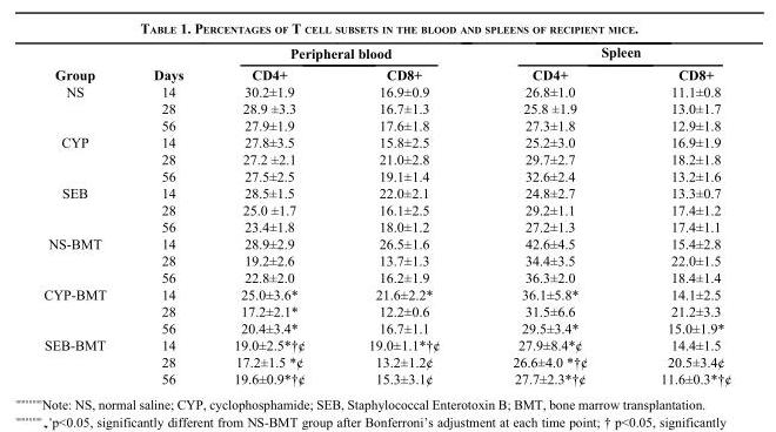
<table><thead><tr><td rowspan="2">Group</td><td rowspan="2">Days</td><td colspan="2">Peripheral blood</td><td colspan="2">Spleen</td></tr><tr><td>CD4+</td><td>CD8+</td><td>CD4+</td><td>CD8+</td></tr></thead><tbody><tr><td rowspan="3">NS</td><td>14</td><td>30.2±1.9</td><td>16.9±0.9</td><td>26.8±1.0</td><td>11.1±0.8</td></tr><tr><td>28</td><td>28.9 ±3.3</td><td>16.7±1.3</td><td>25.8 ±1.9</td><td>13.0±1.7</td></tr><tr><td>56</td><td>27.9±1.9</td><td>17.6±1.8</td><td>27.3±1.8</td><td>12.9±1.8</td></tr><tr><td rowspan="3">CYP</td><td>14</td><td>27.8±3.5</td><td>15.8±2.5</td><td>25.2±3.0</td><td>16.9±1.9</td></tr><tr><td>28</td><td>27.2 ±2.1</td><td>21.0±2.8</td><td>29.7±2.7</td><td>18.2±1.8</td></tr><tr><td>56</td><td>27.5±2.5</td><td>19.1±1.4</td><td>32.6±2.4</td><td>13.2±1.6</td></tr><tr><td rowspan="3">SEB</td><td>14</td><td>28.5±1.5</td><td>22.0±2.1</td><td>24.8±2.7</td><td>13.3±0.7</td></tr><tr><td>28</td><td>25.0 ±1.7</td><td>16.1±2.5</td><td>29.2±1.1</td><td>17.4±1.2</td></tr><tr><td>56</td><td>23.4±1.8</td><td>18.0±1.2</td><td>27.2±1.3</td><td>17.4±1.1</td></tr><tr><td rowspan="3">NS-BMT</td><td>14</td><td>28.9±2.9</td><td>26.5±1.6</td><td>42.6±4.5</td><td>15.4±2.8</td></tr><tr><td>28</td><td>19.2±2.6</td><td>13.7±1.3</td><td>34.4±3.5</td><td>22.0±1.5</td></tr><tr><td>56</td><td>22.8±2.0</td><td>16.2±1.9</td><td>36.3±2.0</td><td>18.4±1.4</td></tr><tr><td rowspan="3">CYP-BMT</td><td>14</td><td>25.0±3.6*</td><td>21.6±2.2*</td><td>36.1±5.8*</td><td>14.1±2.5</td></tr><tr><td>28</td><td>17.2±2.1*</td><td>12.2±0.6</td><td>31.5±6.6</td><td>21.2±3.3</td></tr><tr><td>56</td><td>20.4±3.4*</td><td>16.7±1.1</td><td>29.5±3.4*</td><td>15.0±1.9*</td></tr><tr><td rowspan="3">SEB-BMT</td><td>14</td><td>19.0±2.5*†¢</td><td>19.0±1.1*†¢</td><td>27.9±8.4*¢</td><td>14.4±1.5</td></tr><tr><td>28</td><td>17.2±1.5 *¢</td><td>13.2±1.2¢</td><td>26.6±4.0 *†¢</td><td>20.5±3.4¢</td></tr><tr><td>56</td><td>19.6±0.9*†¢</td><td>15.3±3.1¢</td><td>27.7±2.3*†¢</td><td>11.6±0.3*†¢</td></tr></tbody></table>